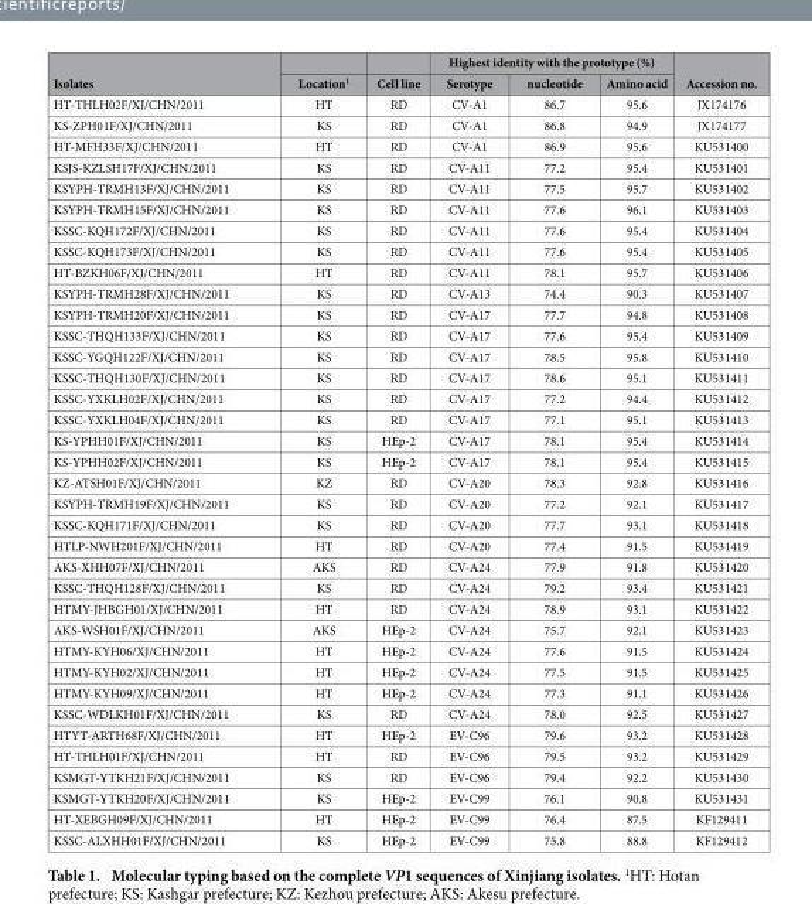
<table><thead><tr><td rowspan="2">Isolates</td><td rowspan="2">Location<sup>1</sup></td><td rowspan="2">Cell line</td><td colspan="3">Highest identity with the prototype (%)</td><td rowspan="2">Accession no.</td></tr><tr><td>Serotype</td><td>nucleotide</td><td>Amino acid</td></tr></thead><tbody><tr><td>HT-THLH02F/XJ/CHN/2011</td><td>HT</td><td>RD</td><td>CV-A1</td><td>86.7</td><td>95.6</td><td>JX174176</td></tr><tr><td>KS-ZPH01F/XJ/CHN/2011</td><td>KS</td><td>RD</td><td>CV-A1</td><td>86.8</td><td>94.9</td><td>JX174177</td></tr><tr><td>HT-MFH33F/XJ/CHN/2011</td><td>HT</td><td>RD</td><td>CV-A1</td><td>86.9</td><td>95.6</td><td>KU531400</td></tr><tr><td>KSJS-KZLSH17F/XJ/CHN/2011</td><td>KS</td><td>RD</td><td>CV-A11</td><td>77.2</td><td>95.4</td><td>KU531401</td></tr><tr><td>KSYPH-TRMH13F/XJ/CHN/2011</td><td>KS</td><td>RD</td><td>CV-A11</td><td>77.5</td><td>95.7</td><td>KU531402</td></tr><tr><td>KSYPH-TRMH15F/XJ/CHN/2011</td><td>KS</td><td>RD</td><td>CV-A11</td><td>77.6</td><td>96.1</td><td>KU531403</td></tr><tr><td>KSSC-KQH172F/XJ/CHN/2011</td><td>KS</td><td>RD</td><td>CV-A11</td><td>77.6</td><td>95.4</td><td>KU531404</td></tr><tr><td>KSSC-KQH173F/XJ/CHN/2011</td><td>KS</td><td>RD</td><td>CV-A11</td><td>77.6</td><td>95.4</td><td>KU531405</td></tr><tr><td>HT-BZKH06F/XJ/CHN/2011</td><td>HT</td><td>RD</td><td>CV-A11</td><td>78.1</td><td>95.7</td><td>KU531406</td></tr><tr><td>KSYPH-TRMH28F/XJ/CHN/2011</td><td>KS</td><td>RD</td><td>CV-A13</td><td>74.4</td><td>90.3</td><td>KU531407</td></tr><tr><td>KSYPH-TRMH20F/XJ/CHN/2011</td><td>KS</td><td>RD</td><td>CV-A17</td><td>77.7</td><td>94.8</td><td>KU531408</td></tr><tr><td>KSSC-THQH133F/XJ/CHN/2011</td><td>KS</td><td>RD</td><td>CV-A17</td><td>77.6</td><td>95.4</td><td>KU531409</td></tr><tr><td>KSSC-YGQH122F/XJ/CHN/2011</td><td>KS</td><td>RD</td><td>CV-A17</td><td>78.5</td><td>95.8</td><td>KU531410</td></tr><tr><td>KSSC-THQH130F/XJ/CHN/2011</td><td>KS</td><td>RD</td><td>CV-A17</td><td>78.6</td><td>95.1</td><td>KU531411</td></tr><tr><td>KSSC-YXKLH02F/XJ/CHN/2011</td><td>KS</td><td>RD</td><td>CV-A17</td><td>77.2</td><td>94.4</td><td>KU531412</td></tr><tr><td>KSSC-YXKLH04F/XJ/CHN/2011</td><td>KS</td><td>RD</td><td>CV-A17</td><td>77.1</td><td>95.1</td><td>KU531413</td></tr><tr><td>KS-YPHH01F/XJ/CHN/2011</td><td>KS</td><td>HEp-2</td><td>CV-A17</td><td>78.1</td><td>95.4</td><td>KU531414</td></tr><tr><td>KS-YPHH02F/XJ/CHN/2011</td><td>KS</td><td>HEp-2</td><td>CV-A17</td><td>78.1</td><td>95.4</td><td>KU531415</td></tr><tr><td>KZ-ATSH01F/XJ/CHN/2011</td><td>KZ</td><td>RD</td><td>CV-A20</td><td>78.3</td><td>92.8</td><td>KU531416</td></tr><tr><td>KSYPH-TRMH19F/XJ/CHN/2011</td><td>KS</td><td>RD</td><td>CV-A20</td><td>77.2</td><td>92.1</td><td>KU531417</td></tr><tr><td>KSSC-KQH171F/XJ/CHN/2011</td><td>KS</td><td>RD</td><td>CV-A20</td><td>77.7</td><td>93.1</td><td>KU531418</td></tr><tr><td>HTLP-NWH201F/XJ/CHN/2011</td><td>HT</td><td>RD</td><td>CV-A20</td><td>77.4</td><td>91.5</td><td>KU531419</td></tr><tr><td>AKS-XHH07F/XJ/CHN/2011</td><td>AKS</td><td>RD</td><td>CV-A24</td><td>77.9</td><td>91.8</td><td>KU531420</td></tr><tr><td>KSSC-THQH128F/XJ/CHN/2011</td><td>KS</td><td>RD</td><td>CV-A24</td><td>79.2</td><td>93.4</td><td>KU531421</td></tr><tr><td>HTMY-JHBGH01/XJ/CHN/2011</td><td>HT</td><td>RD</td><td>CV-A24</td><td>78.9</td><td>93.1</td><td>KU531422</td></tr><tr><td>AKS-WSH01F/XJ/CHN/2011</td><td>AKS</td><td>HEp-2</td><td>CV-A24</td><td>75.7</td><td>92.1</td><td>KU531423</td></tr><tr><td>HTMY-KYH06/XJ/CHN/2011</td><td>HT</td><td>HEp-2</td><td>CV-A24</td><td>77.6</td><td>91.5</td><td>KU531424</td></tr><tr><td>HTMY-KYH02/XJ/CHN/2011</td><td>HT</td><td>HEp-2</td><td>CV-A24</td><td>77.5</td><td>91.5</td><td>KU531425</td></tr><tr><td>HTMY-KYH09/XJ/CHN/2011</td><td>HT</td><td>HEp-2</td><td>CV-A24</td><td>77.3</td><td>91.1</td><td>KU531426</td></tr><tr><td>KSSC-WDLKH01F/XJ/CHN/2011</td><td>KS</td><td>RD</td><td>CV-A24</td><td>78.0</td><td>92.5</td><td>KU531427</td></tr><tr><td>HTYT-ARTH68F/XJ/CHN/2011</td><td>HT</td><td>HEp-2</td><td>EV-C96</td><td>79.6</td><td>93.2</td><td>KU531428</td></tr><tr><td>HT-THLH01F/XJ/CHN/2011</td><td>HT</td><td>RD</td><td>EV-C96</td><td>79.5</td><td>93.2</td><td>KU531429</td></tr><tr><td>KSMGT-YTKH21F/XJ/CHN/2011</td><td>KS</td><td>RD</td><td>EV-C96</td><td>79.4</td><td>92.2</td><td>KU531430</td></tr><tr><td>KSMGT-YTKH20F/XJ/CHN/2011</td><td>KS</td><td>HEp-2</td><td>EV-C99</td><td>76.1</td><td>90.8</td><td>KU531431</td></tr><tr><td>HT-XEBGH09F/XJ/CHN/2011</td><td>HT</td><td>HEp-2</td><td>EV-C99</td><td>76.4</td><td>87.5</td><td>KF129411</td></tr><tr><td>KSSC-ALXHH01F/XJ/CHN/2011</td><td>KS</td><td>HEp-2</td><td>EV-C99</td><td>75.8</td><td>88.8</td><td>KF129412</td></tr></tbody></table>